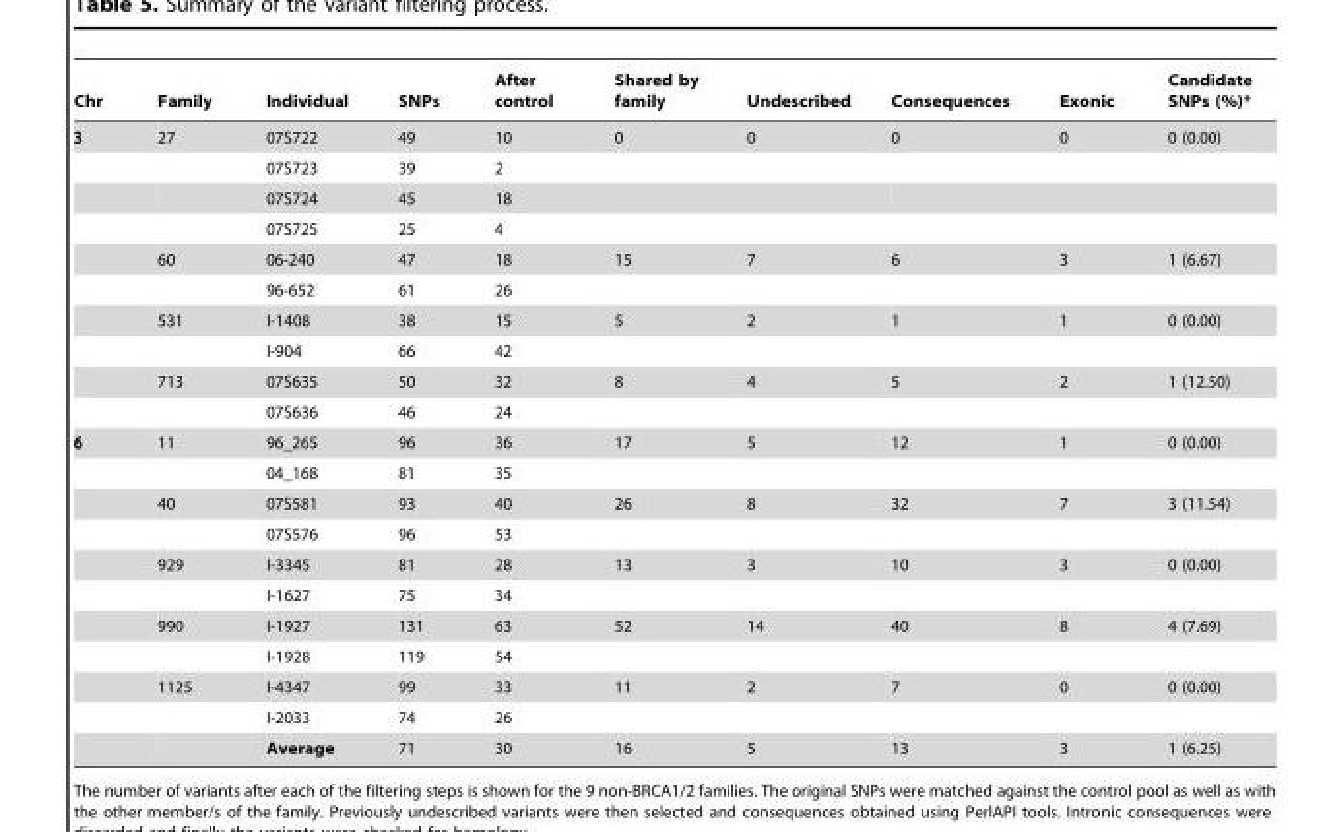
<table><thead><tr><td>Chr</td><td>Family</td><td>Individual</td><td>SNPs</td><td>After control</td><td>Shared by family</td><td>Undescribed</td><td>Consequences</td><td>Exonic</td><td>Candidate SNPs (%)*</td></tr></thead><tbody><tr><td rowspan="10">3</td><td>27</td><td>07S722</td><td>49</td><td>10</td><td>0</td><td>0</td><td>0</td><td>0</td><td>0 (0.00)</td></tr><tr><td></td><td>07S723</td><td>39</td><td>2</td><td></td><td></td><td></td><td></td><td></td></tr><tr><td></td><td>07S724</td><td>45</td><td>18</td><td></td><td></td><td></td><td></td><td></td></tr><tr><td></td><td>07S725</td><td>25</td><td>4</td><td></td><td></td><td></td><td></td><td></td></tr><tr><td>60</td><td>06-240</td><td>47</td><td>18</td><td>15</td><td>7</td><td>6</td><td>3</td><td>1 (6.67)</td></tr><tr><td></td><td>96-652</td><td>61</td><td>26</td><td></td><td></td><td></td><td></td><td></td></tr><tr><td>531</td><td>I-1408</td><td>38</td><td>15</td><td>5</td><td>2</td><td>1</td><td>1</td><td>0 (0.00)</td></tr><tr><td></td><td>I-904</td><td>66</td><td>42</td><td></td><td></td><td></td><td></td><td></td></tr><tr><td>713</td><td>07S635</td><td>50</td><td>32</td><td>8</td><td>4</td><td>5</td><td>2</td><td>1 (12.50)</td></tr><tr><td></td><td>07S636</td><td>46</td><td>24</td><td></td><td></td><td></td><td></td><td></td></tr><tr><td rowspan="11">6</td><td>11</td><td>96_265</td><td>96</td><td>36</td><td>17</td><td>5</td><td>12</td><td>1</td><td>0 (0.00)</td></tr><tr><td></td><td>04_168</td><td>81</td><td>35</td><td></td><td></td><td></td><td></td><td></td></tr><tr><td>40</td><td>07S581</td><td>93</td><td>40</td><td>26</td><td>8</td><td>32</td><td>7</td><td>3 (11.54)</td></tr><tr><td></td><td>07S576</td><td>96</td><td>53</td><td></td><td></td><td></td><td></td><td></td></tr><tr><td>929</td><td>I-3345</td><td>81</td><td>28</td><td>13</td><td>3</td><td>10</td><td>3</td><td>0 (0.00)</td></tr><tr><td></td><td>I-1627</td><td>75</td><td>34</td><td></td><td></td><td></td><td></td><td></td></tr><tr><td>990</td><td>I-1927</td><td>131</td><td>63</td><td>52</td><td>14</td><td>40</td><td>8</td><td>4 (7.69)</td></tr><tr><td></td><td>I-1928</td><td>119</td><td>54</td><td></td><td></td><td></td><td></td><td></td></tr><tr><td>1125</td><td>I-4347</td><td>99</td><td>33</td><td>11</td><td>2</td><td>7</td><td>0</td><td>0 (0.00)</td></tr><tr><td></td><td>I-2033</td><td>74</td><td>26</td><td></td><td></td><td></td><td></td><td></td></tr><tr><td></td><td>Average</td><td>71</td><td>30</td><td>16</td><td>5</td><td>13</td><td>3</td><td>1 (6.25)</td></tr></tbody></table>